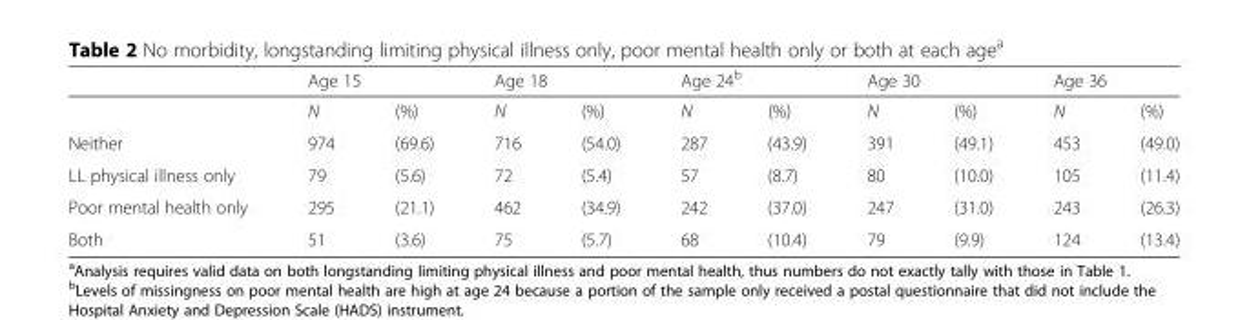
<table><thead><tr><td rowspan="2"></td><td colspan="2">Age 15</td><td colspan="2">Age 18</td><td colspan="2">Age 24<sup>b</sup></td><td colspan="2">Age 30</td><td colspan="2">Age 36</td></tr><tr><td>N</td><td>(%)</td><td>N</td><td>(%)</td><td>N</td><td>(%)</td><td>N</td><td>(%)</td><td>N</td><td>(%)</td></tr></thead><tbody><tr><td>Neither</td><td>974</td><td>(69.6)</td><td>716</td><td>(54.0)</td><td>287</td><td>(43.9)</td><td>391</td><td>(49.1)</td><td>453</td><td>(49.0)</td></tr><tr><td>LL physical illness only</td><td>79</td><td>(5.6)</td><td>72</td><td>(5.4)</td><td>57</td><td>(8.7)</td><td>80</td><td>(10.0)</td><td>105</td><td>(11.4)</td></tr><tr><td>Poor mental health only</td><td>295</td><td>(21.1)</td><td>462</td><td>(34.9)</td><td>242</td><td>(37.0)</td><td>247</td><td>(31.0)</td><td>243</td><td>(26.3)</td></tr><tr><td>Both</td><td>51</td><td>(3.6)</td><td>75</td><td>(5.7)</td><td>68</td><td>(10.4)</td><td>79</td><td>(9.9)</td><td>124</td><td>(13.4)</td></tr></tbody></table>